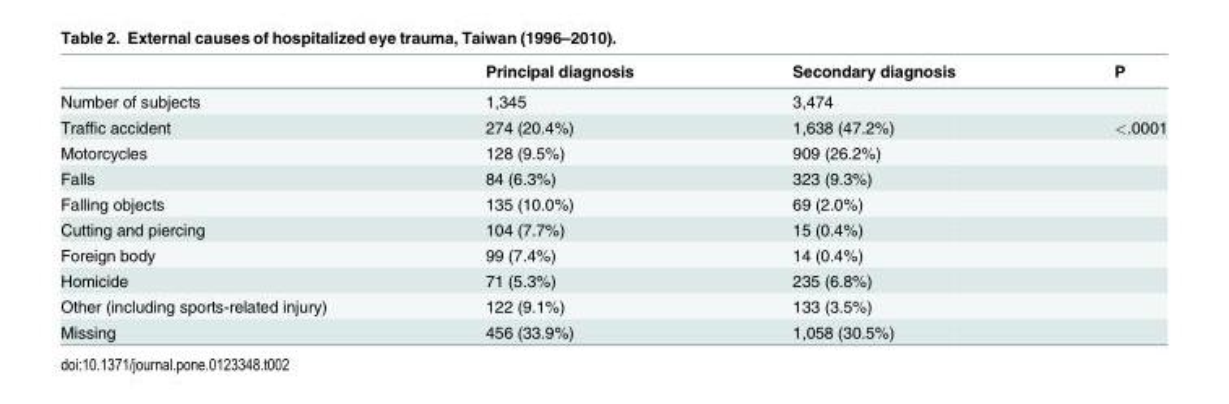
<table><thead><tr><td></td><td>Principal diagnosis</td><td>Secondary diagnosis</td><td>P</td></tr></thead><tbody><tr><td>Number of subjects</td><td>1,345</td><td>3,474</td><td></td></tr><tr><td>Traffic accident</td><td>274 (20.4%)</td><td>1,638 (47.2%)</td><td>&lt;.0001</td></tr><tr><td>Motorcycles</td><td>128 (9.5%)</td><td>909 (26.2%)</td><td></td></tr><tr><td>Falls</td><td>84 (6.3%)</td><td>323 (9.3%)</td><td></td></tr><tr><td>Falling objects</td><td>135 (10.0%)</td><td>69 (2.0%)</td><td></td></tr><tr><td>Cutting and piercing</td><td>104 (7.7%)</td><td>15 (0.4%)</td><td></td></tr><tr><td>Foreign body</td><td>99 (7.4%)</td><td>14 (0.4%)</td><td></td></tr><tr><td>Homicide</td><td>71 (5.3%)</td><td>235 (6.8%)</td><td></td></tr><tr><td>Other (including sports-related injury)</td><td>122 (9.1%)</td><td>133 (3.5%)</td><td></td></tr><tr><td>Missing</td><td>456 (33.9%)</td><td>1,058 (30.5%)</td><td></td></tr></tbody></table>